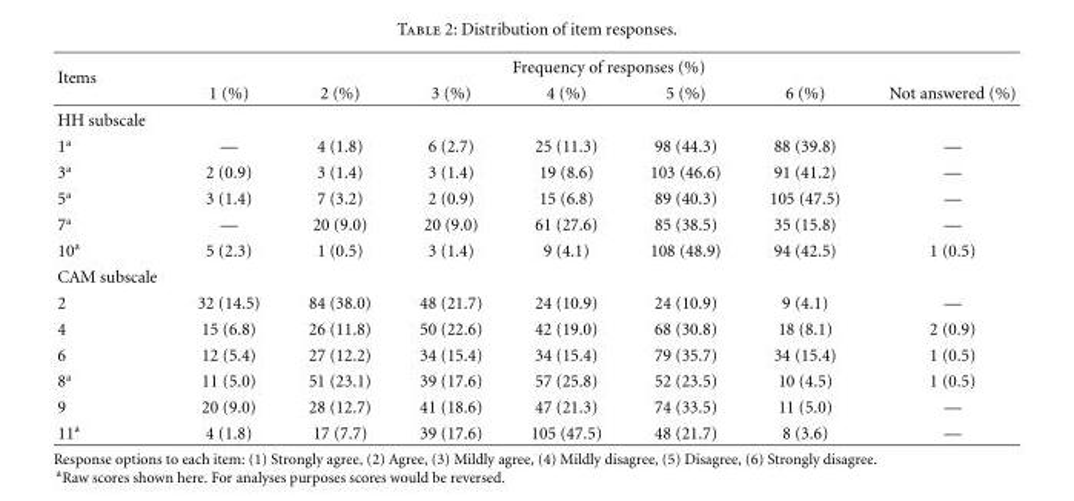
<table><thead><tr><td rowspan="2">Items</td><td colspan="7">Frequency of responses (%)</td></tr><tr><td>1 (%)</td><td>2 (%)</td><td>3 (%)</td><td>4 (%)</td><td>5 (%)</td><td>6 (%)</td><td>Not answered (%)</td></tr></thead><tbody><tr><td colspan="8">HH subscale</td></tr><tr><td>1<sup>a</sup></td><td>—</td><td>4 (1.8)</td><td>6 (2.7)</td><td>25 (11.3)</td><td>98 (44.3)</td><td>88 (39.8)</td><td>—</td></tr><tr><td>3<sup>a</sup></td><td>2 (0.9)</td><td>3 (1.4)</td><td>3 (1.4)</td><td>19 (8.6)</td><td>103 (46.6)</td><td>91 (41.2)</td><td>—</td></tr><tr><td>5<sup>a</sup></td><td>3 (1.4)</td><td>7 (3.2)</td><td>2 (0.9)</td><td>15 (6.8)</td><td>89 (40.3)</td><td>105 (47.5)</td><td>—</td></tr><tr><td>7<sup>a</sup></td><td>—</td><td>20 (9.0)</td><td>20 (9.0)</td><td>61 (27.6)</td><td>85 (38.5)</td><td>35 (15.8)</td><td>—</td></tr><tr><td>10<sup>a</sup></td><td>5 (2.3)</td><td>1 (0.5)</td><td>3 (1.4)</td><td>9 (4.1)</td><td>108 (48.9)</td><td>94 (42.5)</td><td>1 (0.5)</td></tr><tr><td colspan="8">CAM subscale</td></tr><tr><td>2</td><td>32 (14.5)</td><td>84 (38.0)</td><td>48 (21.7)</td><td>24 (10.9)</td><td>24 (10.9)</td><td>9 (4.1)</td><td>—</td></tr><tr><td>4</td><td>15 (6.8)</td><td>26 (11.8)</td><td>50 (22.6)</td><td>42 (19.0)</td><td>68 (30.8)</td><td>18 (8.1)</td><td>2 (0.9)</td></tr><tr><td>6</td><td>12 (5.4)</td><td>27 (12.2)</td><td>34 (15.4)</td><td>34 (15.4)</td><td>79 (35.7)</td><td>34 (15.4)</td><td>1 (0.5)</td></tr><tr><td>8<sup>a</sup></td><td>11 (5.0)</td><td>51 (23.1)</td><td>39 (17.6)</td><td>57 (25.8)</td><td>52 (23.5)</td><td>10 (4.5)</td><td>1 (0.5)</td></tr><tr><td>9</td><td>20 (9.0)</td><td>28 (12.7)</td><td>41 (18.6)</td><td>47 (21.3)</td><td>74 (33.5)</td><td>11 (5.0)</td><td>—</td></tr><tr><td>11<sup>a</sup></td><td>4 (1.8)</td><td>17 (7.7)</td><td>39 (17.6)</td><td>105 (47.5)</td><td>48 (21.7)</td><td>8 (3.6)</td><td>—</td></tr></tbody></table>